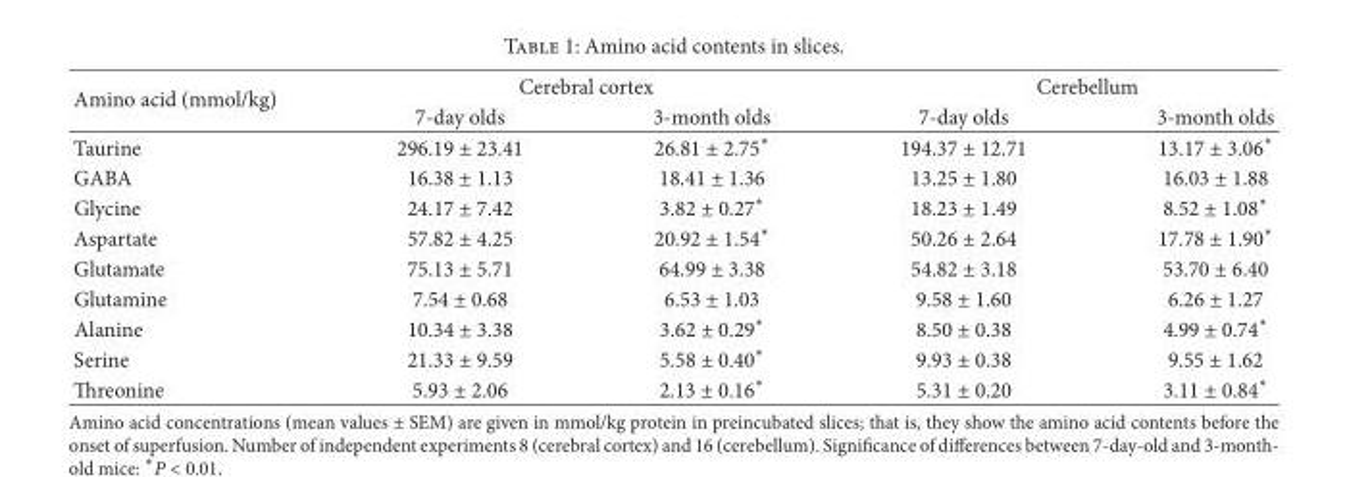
<table><thead><tr><td rowspan="2">Amino acid (mmol/kg)</td><td colspan="2">Cerebral cortex</td><td colspan="2">Cerebellum</td></tr><tr><td>7-day olds</td><td>3-month olds</td><td>7-day olds</td><td>3-month olds</td></tr></thead><tbody><tr><td>Taurine</td><td>296.19 ± 23.41</td><td>26.81 ± 2.75∗</td><td>194.37 ± 12.71</td><td>13.17 ± 3.06∗</td></tr><tr><td>GABA</td><td>16.38 ± 1.13</td><td>18.41 ± 1.36</td><td>13.25 ± 1.80</td><td>16.03 ± 1.88</td></tr><tr><td>Glycine</td><td>24.17 ± 7.42</td><td>3.82 ± 0.27∗</td><td>18.23 ± 1.49</td><td>8.52 ± 1.08∗</td></tr><tr><td>Aspartate</td><td>57.82 ± 4.25</td><td>20.92 ± 1.54∗</td><td>50.26 ± 2.64</td><td>17.78 ± 1.90∗</td></tr><tr><td>Glutamate</td><td>75.13 ± 5.71</td><td>64.99 ± 3.38</td><td>54.82 ± 3.18</td><td>53.70 ± 6.40</td></tr><tr><td>Glutamine</td><td>7.54 ± 0.68</td><td>6.53 ± 1.03</td><td>9.58 ± 1.60</td><td>6.26 ± 1.27</td></tr><tr><td>Alanine</td><td>10.34 ± 3.38</td><td>3.62 ± 0.29∗</td><td>8.50 ± 0.38</td><td>4.99 ± 0.74∗</td></tr><tr><td>Serine</td><td>21.33 ± 9.59</td><td>5.58 ± 0.40∗</td><td>9.93 ± 0.38</td><td>9.55 ± 1.62</td></tr><tr><td>reonine</td><td>5.93 ± 2.06</td><td>2.13 ± 0.16∗</td><td>5.31 ± 0.20</td><td>3.11 ± 0.84∗</td></tr></tbody></table>